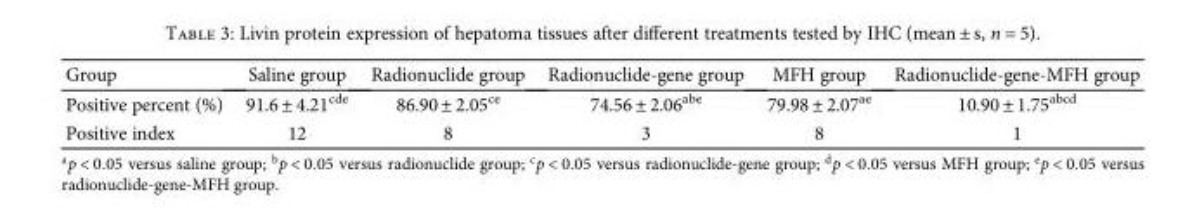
<table><thead><tr><td>Group</td><td>Saline group</td><td>Radionuclide group</td><td>Radionuclide-gene group</td><td>MFH group</td><td>Radionuclide-gene-MFH group</td></tr></thead><tbody><tr><td>Positive percent (%)</td><td>91.6 ± 4.21<sup>cde</sup></td><td>86.90 ± 2.05<sup>ce</sup></td><td>74.56 ± 2.06<sup>abe</sup></td><td>79.98 ± 2.07<sup>ae</sup></td><td>10.90 ± 1.75<sup>abcd</sup></td></tr><tr><td>Positive index</td><td>12</td><td>8</td><td>3</td><td>8</td><td>1</td></tr></tbody></table>